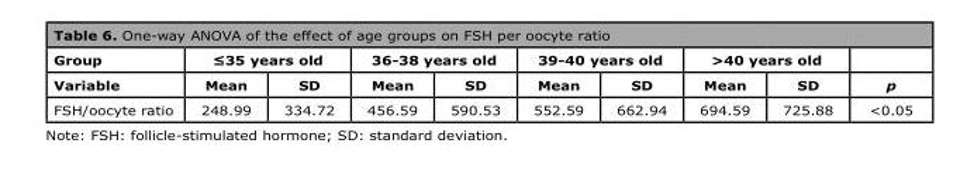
<table><thead><tr><td rowspan="2">Group Variable</td><td colspan="2">≤35 years old</td><td colspan="2">36-38 years old</td><td colspan="2">39-40 years old</td><td colspan="2">&gt;40 years old</td><td rowspan="2">p</td></tr><tr><td>Mean</td><td>SD</td><td>Mean</td><td>SD</td><td>Mean</td><td>SD</td><td>Mean</td><td>SD</td></tr></thead><tbody><tr><td>FSH/oocyte ratio</td><td>248.99</td><td>334.72</td><td>456.59</td><td>590.53</td><td>552.59</td><td>662.94</td><td>694.59</td><td>725.88</td><td>&lt;0.05</td></tr></tbody></table>